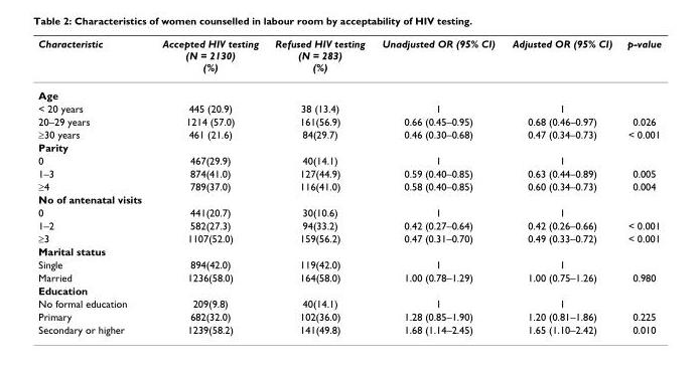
<table><thead><tr><td>Characteristic</td><td>Accepted HIV testing (N = 2130) (%)</td><td>Refused HIV testing (N = 283) (%)</td><td>Unadjusted OR (95% CI)</td><td>Adjusted OR (95% CI)</td><td>p-value</td></tr></thead><tbody><tr><td colspan="6">Age</td></tr><tr><td>&lt; 20 years</td><td>445 (20.9)</td><td>38 (13.4)</td><td>1</td><td>1</td><td></td></tr><tr><td>20–29 years</td><td>1214 (57.0)</td><td>161(56.9)</td><td>0.66 (0.45–0.95)</td><td>0.68 (0.46–0.97)</td><td>0.026</td></tr><tr><td>≥30 years</td><td>461 (21.6)</td><td>84(29.7)</td><td>0.46 (0.30–0.68)</td><td>0.47 (0.34–0.73)</td><td>&lt; 0.001</td></tr><tr><td colspan="6">Parity</td></tr><tr><td>0</td><td>467(29.9)</td><td>40(14.1)</td><td>1</td><td>1</td><td></td></tr><tr><td>1–3</td><td>874(41.0)</td><td>127(44.9)</td><td>0.59 (0.40–0.85)</td><td>0.63 (0.44–0.89)</td><td>0.005</td></tr><tr><td>≥4</td><td>789(37.0)</td><td>116(41.0)</td><td>0.58 (0.40–0.85)</td><td>0.60 (0.34–0.73)</td><td>0.004</td></tr><tr><td colspan="6">No of antenatal visits</td></tr><tr><td>0</td><td>441(20.7)</td><td>30(10.6)</td><td>1</td><td>1</td><td></td></tr><tr><td>1–2</td><td>582(27.3)</td><td>94(33.2)</td><td>0.42 (0.27–0.64)</td><td>0.42 (0.26–0.66)</td><td>&lt; 0.001</td></tr><tr><td>≥3</td><td>1107(52.0)</td><td>159(56.2)</td><td>0.47 (0.31–0.70)</td><td>0.49 (0.33–0.72)</td><td>&lt; 0.001</td></tr><tr><td colspan="6">Marital status</td></tr><tr><td>Single</td><td>894(42.0)</td><td>119(42.0)</td><td>1</td><td>1</td><td></td></tr><tr><td>Married</td><td>1236(58.0)</td><td>164(58.0)</td><td>1.00 (0.78–1.29)</td><td>1.00 (0.75–1.26)</td><td>0.980</td></tr><tr><td colspan="6">Education</td></tr><tr><td>No formal education</td><td>209(9.8)</td><td>40(14.1)</td><td>1</td><td>1</td><td></td></tr><tr><td>Primary</td><td>682(32.0)</td><td>102(36.0)</td><td>1.28 (0.85–1.90)</td><td>1.20 (0.81–1.86)</td><td>0.225</td></tr><tr><td>Secondary or higher</td><td>1239(58.2)</td><td>141(49.8)</td><td>1.68 (1.14–2.45)</td><td>1.65 (1.10–2.42)</td><td>0.010</td></tr></tbody></table>